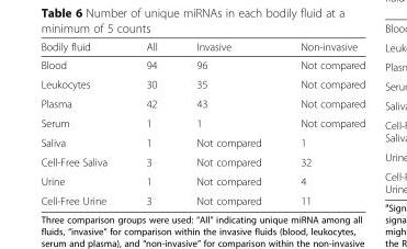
<table><thead><tr><td>Bodily fluid</td><td>All</td><td>Invasive</td><td>Non-invasive</td></tr></thead><tbody><tr><td>Blood</td><td>94</td><td>96</td><td>Not compared</td></tr><tr><td>Leukocytes</td><td>30</td><td>35</td><td>Not compared</td></tr><tr><td>Plasma</td><td>42</td><td>43</td><td>Not compared</td></tr><tr><td>Serum</td><td>1</td><td>1</td><td>Not compared</td></tr><tr><td>Saliva</td><td>1</td><td>Not compared</td><td>1</td></tr><tr><td>Cell-Free Saliva</td><td>3</td><td>Not compared</td><td>32</td></tr><tr><td>Urine</td><td>1</td><td>Not compared</td><td>4</td></tr><tr><td>Cell-Free Urine</td><td>3</td><td>Not compared</td><td>11</td></tr></tbody></table>